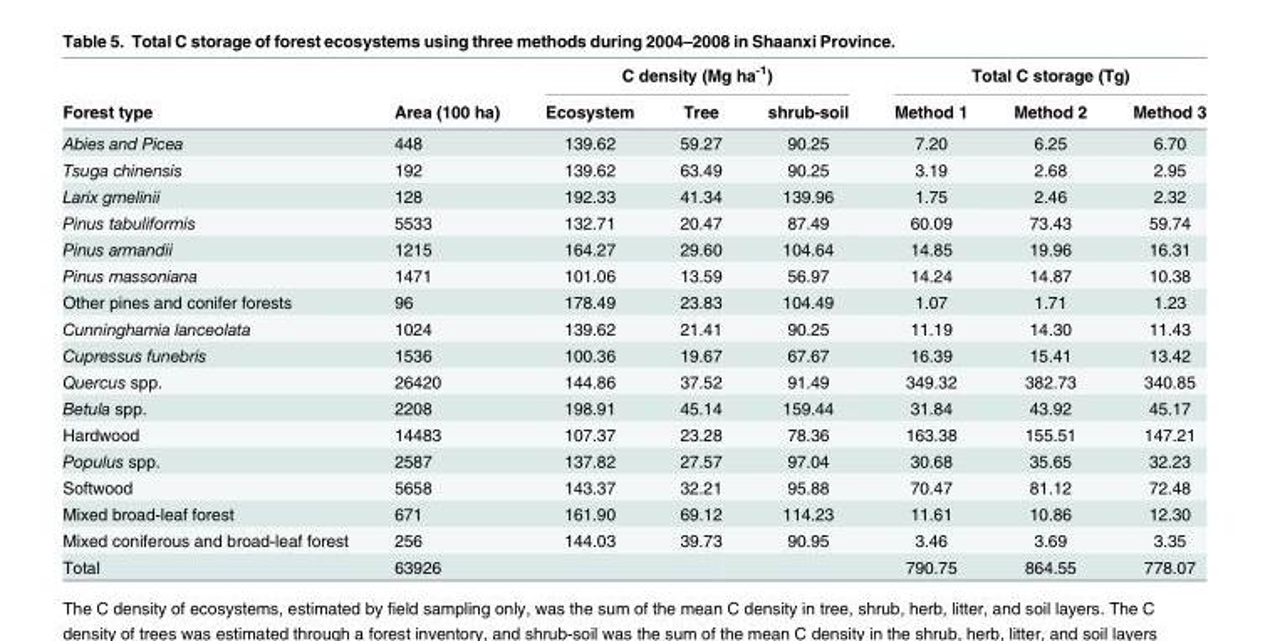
<table><thead><tr><td rowspan="2">Forest type</td><td rowspan="2">Area (100 ha)</td><td colspan="3">C density (Mg ha<sup>-1</sup>)</td><td colspan="3">Total C storage (Tg)</td></tr><tr><td>Ecosystem</td><td>Tree</td><td>shrub-soil</td><td>Method 1</td><td>Method 2</td><td>Method 3</td></tr></thead><tbody><tr><td>Abies and Picea</td><td>448</td><td>139.62</td><td>59.27</td><td>90.25</td><td>7.20</td><td>6.25</td><td>6.70</td></tr><tr><td>Tsuga chinensis</td><td>192</td><td>139.62</td><td>63.49</td><td>90.25</td><td>3.19</td><td>2.68</td><td>2.95</td></tr><tr><td>Larix gmelinii</td><td>128</td><td>192.33</td><td>41.34</td><td>139.96</td><td>1.75</td><td>2.46</td><td>2.32</td></tr><tr><td>Pinus tabuliformis</td><td>5533</td><td>132.71</td><td>20.47</td><td>87.49</td><td>60.09</td><td>73.43</td><td>59.74</td></tr><tr><td>Pinus armandii</td><td>1215</td><td>164.27</td><td>29.60</td><td>104.64</td><td>14.85</td><td>19.96</td><td>16.31</td></tr><tr><td>Pinus massoniana</td><td>1471</td><td>101.06</td><td>13.59</td><td>56.97</td><td>14.24</td><td>14.87</td><td>10.38</td></tr><tr><td>Other pines and conifer forests</td><td>96</td><td>178.49</td><td>23.83</td><td>104.49</td><td>1.07</td><td>1.71</td><td>1.23</td></tr><tr><td>Cunninghamia lanceolata</td><td>1024</td><td>139.62</td><td>21.41</td><td>90.25</td><td>11.19</td><td>14.30</td><td>11.43</td></tr><tr><td>Cupressus funebris</td><td>1536</td><td>100.36</td><td>19.67</td><td>67.67</td><td>16.39</td><td>15.41</td><td>13.42</td></tr><tr><td>Quercus spp.</td><td>26420</td><td>144.86</td><td>37.52</td><td>91.49</td><td>349.32</td><td>382.73</td><td>340.85</td></tr><tr><td>Betula spp.</td><td>2208</td><td>198.91</td><td>45.14</td><td>159.44</td><td>31.84</td><td>43.92</td><td>45.17</td></tr><tr><td>Hardwood</td><td>14483</td><td>107.37</td><td>23.28</td><td>78.36</td><td>163.38</td><td>155.51</td><td>147.21</td></tr><tr><td>Populus spp.</td><td>2587</td><td>137.82</td><td>27.57</td><td>97.04</td><td>30.68</td><td>35.65</td><td>32.23</td></tr><tr><td>Softwood</td><td>5658</td><td>143.37</td><td>32.21</td><td>95.88</td><td>70.47</td><td>81.12</td><td>72.48</td></tr><tr><td>Mixed broad-leaf forest</td><td>671</td><td>161.90</td><td>69.12</td><td>114.23</td><td>11.61</td><td>10.86</td><td>12.30</td></tr><tr><td>Mixed coniferous and broad-leaf forest</td><td>256</td><td>144.03</td><td>39.73</td><td>90.95</td><td>3.46</td><td>3.69</td><td>3.35</td></tr><tr><td>Total</td><td>63926</td><td></td><td></td><td></td><td>790.75</td><td>864.55</td><td>778.07</td></tr></tbody></table>